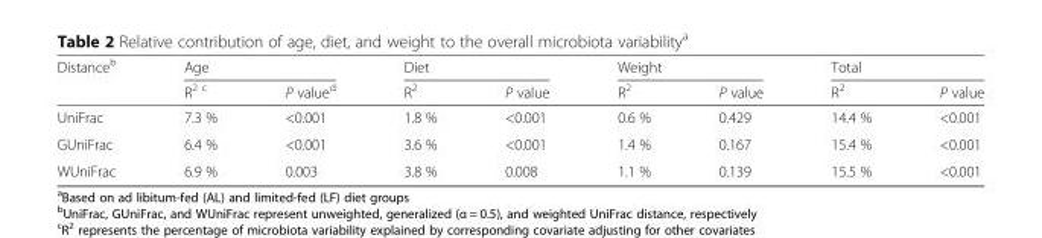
<table><thead><tr><td rowspan="2">Distance<sup>b</sup></td><td colspan="2">Age</td><td colspan="2">Diet</td><td colspan="2">Weight</td><td colspan="2">Total</td></tr><tr><td>R<sup>2 c</sup></td><td>P value<sup>d</sup></td><td>R<sup>2</sup></td><td>P value</td><td>R<sup>2</sup></td><td>P value</td><td>R<sup>2</sup></td><td>P value</td></tr></thead><tbody><tr><td>UniFrac</td><td>7.3 %</td><td>&lt;0.001</td><td>1.8 %</td><td>&lt;0.001</td><td>0.6 %</td><td>0.429</td><td>14.4 %</td><td>&lt;0.001</td></tr><tr><td>GUniFrac</td><td>6.4 %</td><td>&lt;0.001</td><td>3.6 %</td><td>&lt;0.001</td><td>1.4 %</td><td>0.167</td><td>15.4 %</td><td>&lt;0.001</td></tr><tr><td>WUniFrac</td><td>6.9 %</td><td>0.003</td><td>3.8 %</td><td>0.008</td><td>1.1 %</td><td>0.139</td><td>15.5 %</td><td>&lt;0.001</td></tr></tbody></table>